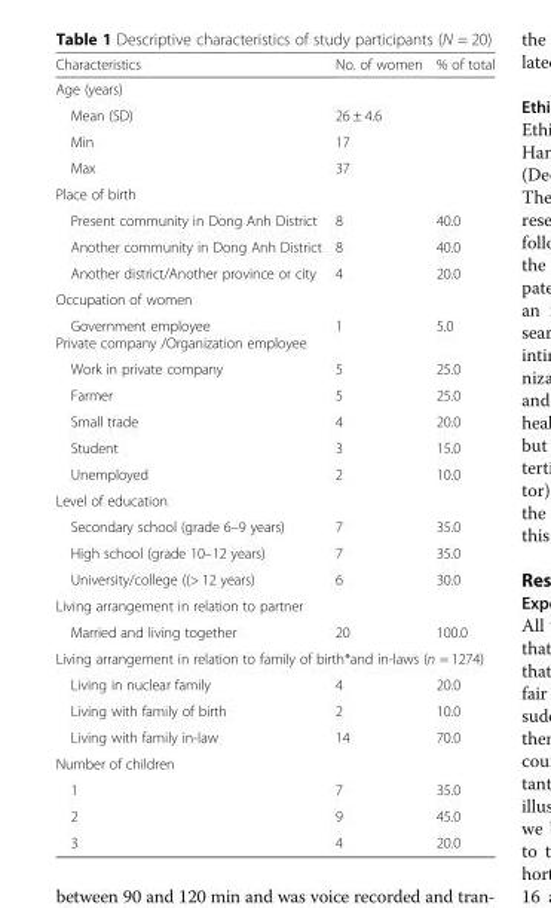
<table><thead><tr><td>Characteristics</td><td>No. of women</td><td>% of total</td></tr></thead><tbody><tr><td colspan="3">Age (years)</td></tr><tr><td>Mean (SD)</td><td>26 ± 4.6</td><td></td></tr><tr><td>Min</td><td>17</td><td></td></tr><tr><td>Max</td><td>37</td><td></td></tr><tr><td colspan="3">Place of birth</td></tr><tr><td>Present community in Dong Anh District</td><td>8</td><td>40.0</td></tr><tr><td>Another community in Dong Anh District</td><td>8</td><td>40.0</td></tr><tr><td>Another district/Another province or city</td><td>4</td><td>20.0</td></tr><tr><td colspan="3">Occupation of women</td></tr><tr><td>Government employee Private company /Organization employee</td><td>1</td><td>5.0</td></tr><tr><td>Work in private company</td><td>5</td><td>25.0</td></tr><tr><td>Farmer</td><td>5</td><td>25.0</td></tr><tr><td>Small trade</td><td>4</td><td>20.0</td></tr><tr><td>Student</td><td>3</td><td>15.0</td></tr><tr><td>Unemployed</td><td>2</td><td>10.0</td></tr><tr><td colspan="3">Level of education</td></tr><tr><td>Secondary school (grade 6–9 years)</td><td>7</td><td>35.0</td></tr><tr><td>High school (grade 10–12 years)</td><td>7</td><td>35.0</td></tr><tr><td>University/college ((&gt; 12 years)</td><td>6</td><td>30.0</td></tr><tr><td colspan="3">Living arrangement in relation to partner</td></tr><tr><td>Married and living together</td><td>20</td><td>100.0</td></tr><tr><td colspan="3">Living arrangement in relation to family of birth*and in-laws (n = 1274)</td></tr><tr><td>Living in nuclear family</td><td>4</td><td>20.0</td></tr><tr><td>Living with family of birth</td><td>2</td><td>10.0</td></tr><tr><td>Living with family in-law</td><td>14</td><td>70.0</td></tr><tr><td colspan="3">Number of children</td></tr><tr><td>1</td><td>7</td><td>35.0</td></tr><tr><td>2</td><td>9</td><td>45.0</td></tr><tr><td>3</td><td>4</td><td>20.0</td></tr></tbody></table>